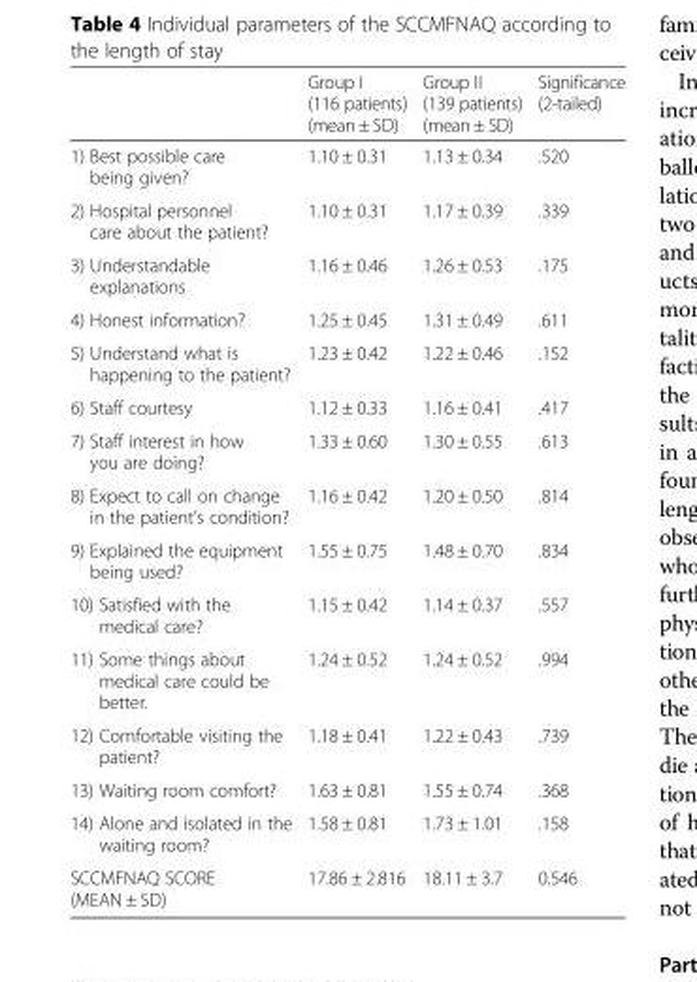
<table><thead><tr><td></td><td>Group I (116 patients) (mean ± SD)</td><td>Group II (139 patients) (mean ± SD)</td><td>Significance (2-tailed)</td></tr></thead><tbody><tr><td>1) Best possible care being given?</td><td>1.10 ± 0.31</td><td>1.13 ± 0.34</td><td>.520</td></tr><tr><td>2) Hospital personnel care about the patient?</td><td>1.10 ± 0.31</td><td>1.17 ± 0.39</td><td>.339</td></tr><tr><td>3) Understandable explanations</td><td>1.16 ± 0.46</td><td>1.26 ± 0.53</td><td>.175</td></tr><tr><td>4) Honest information?</td><td>1.25 ± 0.45</td><td>1.31 ± 0.49</td><td>.611</td></tr><tr><td>5) Understand what is happening to the patient?</td><td>1.23 ± 0.42</td><td>1.22 ± 0.46</td><td>.152</td></tr><tr><td>6) Staff courtesy</td><td>1.12 ± 0.33</td><td>1.16 ± 0.41</td><td>.417</td></tr><tr><td>7) Staff interest in how you are doing?</td><td>1.33 ± 0.60</td><td>1.30 ± 0.55</td><td>.613</td></tr><tr><td>8) Expect to call on change in the patient’s condition?</td><td>1.16 ± 0.42</td><td>1.20 ± 0.50</td><td>.814</td></tr><tr><td>9) Explained the equipment being used?</td><td>1.55 ± 0.75</td><td>1.48 ± 0.70</td><td>.834</td></tr><tr><td>10) Satisfied with the medical care?</td><td>1.15 ± 0.42</td><td>1.14 ± 0.37</td><td>.557</td></tr><tr><td>11) Some things about medical care could be better.</td><td>1.24 ± 0.52</td><td>1.24 ± 0.52</td><td>.994</td></tr><tr><td>12) Comfortable visiting the patient?</td><td>1.18 ± 0.41</td><td>1.22 ± 0.43</td><td>.739</td></tr><tr><td>13) Waiting room comfort?</td><td>1.63 ± 0.81</td><td>1.55 ± 0.74</td><td>.368</td></tr><tr><td>14) Alone and isolated in the waiting room?</td><td>1.58 ± 0.81</td><td>1.73 ± 1.01</td><td>.158</td></tr><tr><td>SCCMFNAQ SCORE (MEAN ± SD)</td><td>17.86 ± 2.816</td><td>18.11 ± 3.7</td><td>0.546</td></tr></tbody></table>